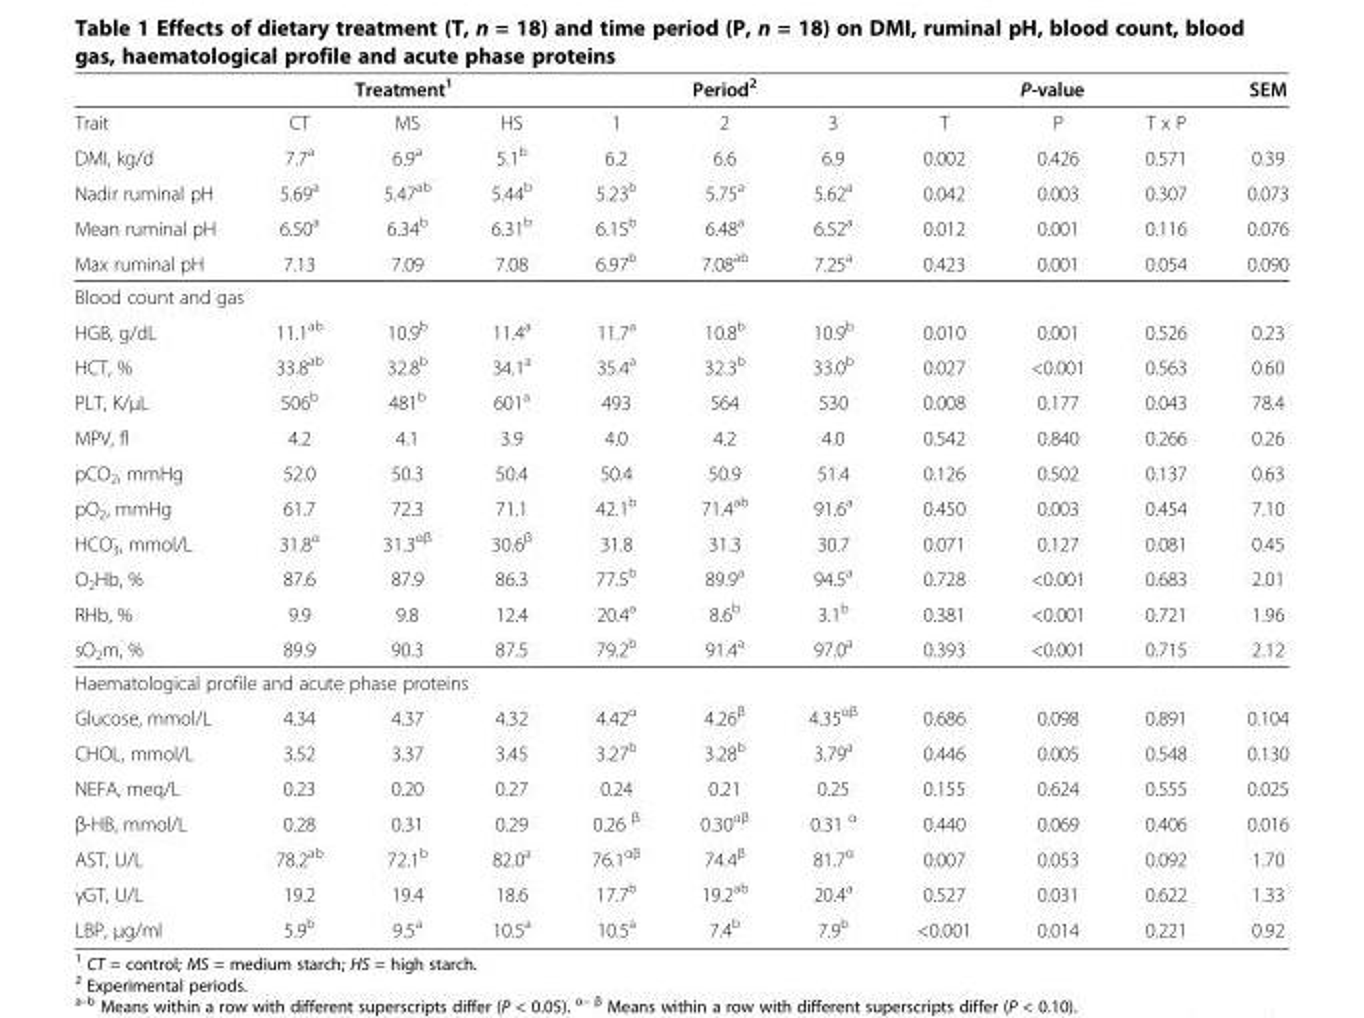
<table><thead><tr><td rowspan="2">Trait</td><td colspan="3">Treatment<sup>1</sup></td><td colspan="3">Period<sup>2</sup></td><td colspan="3">P-value</td><td rowspan="2">SEM</td></tr><tr><td>CT</td><td>MS</td><td>HS</td><td>1</td><td>2</td><td>3</td><td>T</td><td>P</td><td>T x P</td></tr></thead><tbody><tr><td>DMI, kg/d</td><td>7.7<sup>a</sup></td><td>6.9<sup>a</sup></td><td>5.1<sup>b</sup></td><td>6.2</td><td>6.6</td><td>6.9</td><td>0.002</td><td>0.426</td><td>0.571</td><td>0.39</td></tr><tr><td>Nadir ruminal pH</td><td>5.69<sup>a</sup></td><td>5.47<sup>ab</sup></td><td>5.44<sup>b</sup></td><td>5.23<sup>b</sup></td><td>5.75<sup>a</sup></td><td>5.62<sup>a</sup></td><td>0.042</td><td>0.003</td><td>0.307</td><td>0.073</td></tr><tr><td>Mean ruminal pH</td><td>6.50<sup>a</sup></td><td>6.34<sup>b</sup></td><td>6.31<sup>b</sup></td><td>6.15<sup>b</sup></td><td>6.48<sup>a</sup></td><td>6.52<sup>a</sup></td><td>0.012</td><td>0.001</td><td>0.116</td><td>0.076</td></tr><tr><td>Max ruminal pH</td><td>7.13</td><td>7.09</td><td>7.08</td><td>6.97<sup>b</sup></td><td>7.08<sup>ab</sup></td><td>7.25<sup>a</sup></td><td>0.423</td><td>0.001</td><td>0.054</td><td>0.090</td></tr><tr><td colspan="11">Blood count and gas</td></tr><tr><td>HGB, g/dL</td><td>11.1<sup>ab</sup></td><td>10.9<sup>b</sup></td><td>11.4<sup>a</sup></td><td>11.7<sup>a</sup></td><td>10.8<sup>b</sup></td><td>10.9<sup>b</sup></td><td>0.010</td><td>0.001</td><td>0.526</td><td>0.23</td></tr><tr><td>HCT, %</td><td>33.8<sup>ab</sup></td><td>32.8<sup>b</sup></td><td>34.1<sup>a</sup></td><td>35.4<sup>a</sup></td><td>32.3<sup>b</sup></td><td>33.0<sup>b</sup></td><td>0.027</td><td>&lt;0.001</td><td>0.563</td><td>0.60</td></tr><tr><td>PLT, K/μL</td><td>506<sup>b</sup></td><td>481<sup>b</sup></td><td>601<sup>a</sup></td><td>493</td><td>564</td><td>530</td><td>0.008</td><td>0.177</td><td>0.043</td><td>78.4</td></tr><tr><td>MPV, fl</td><td>4.2</td><td>4.1</td><td>3.9</td><td>4.0</td><td>4.2</td><td>4.0</td><td>0.542</td><td>0.840</td><td>0.266</td><td>0.26</td></tr><tr><td>pCO<sub>2</sub>, mmHg</td><td>52.0</td><td>50.3</td><td>50.4</td><td>50.4</td><td>50.9</td><td>51.4</td><td>0.126</td><td>0.502</td><td>0.137</td><td>0.63</td></tr><tr><td>pO<sub>2</sub>, mmHg</td><td>61.7</td><td>72.3</td><td>71.1</td><td>42.1<sup>b</sup></td><td>71.4<sup>ab</sup></td><td>91.6<sup>a</sup></td><td>0.450</td><td>0.003</td><td>0.454</td><td>7.10</td></tr><tr><td>HCO<sub>3</sub> <sup>-</sup>, mmol/L</td><td>31.8<sup>α</sup></td><td>31.3<sup>αβ</sup></td><td>30.6<sup>β</sup></td><td>31.8</td><td>31.3</td><td>30.7</td><td>0.071</td><td>0.127</td><td>0.081</td><td>0.45</td></tr><tr><td>O<sub>2</sub>Hb, %</td><td>87.6</td><td>87.9</td><td>86.3</td><td>77.5<sup>b</sup></td><td>89.9<sup>a</sup></td><td>94.5<sup>a</sup></td><td>0.728</td><td>&lt;0.001</td><td>0.683</td><td>2.01</td></tr><tr><td>RHb, %</td><td>9.9</td><td>9.8</td><td>12.4</td><td>20.4<sup>a</sup></td><td>8.6<sup>b</sup></td><td>3.1<sup>b</sup></td><td>0.381</td><td>&lt;0.001</td><td>0.721</td><td>1.96</td></tr><tr><td>sO<sub>2</sub>m, %</td><td>89.9</td><td>90.3</td><td>87.5</td><td>79.2<sup>b</sup></td><td>91.4<sup>a</sup></td><td>97.0<sup>a</sup></td><td>0.393</td><td>&lt;0.001</td><td>0.715</td><td>2.12</td></tr><tr><td colspan="11">Haematological profile and acute phase proteins</td></tr><tr><td>Glucose, mmol/L</td><td>4.34</td><td>4.37</td><td>4.32</td><td>4.42<sup>α</sup></td><td>4.26<sup>β</sup></td><td>4.35<sup>αβ</sup></td><td>0.686</td><td>0.098</td><td>0.891</td><td>0.104</td></tr><tr><td>CHOL, mmol/L</td><td>3.52</td><td>3.37</td><td>3.45</td><td>3.27<sup>b</sup></td><td>3.28<sup>b</sup></td><td>3.79<sup>a</sup></td><td>0.446</td><td>0.005</td><td>0.548</td><td>0.130</td></tr><tr><td>NEFA, meq/L</td><td>0.23</td><td>0.20</td><td>0.27</td><td>0.24</td><td>0.21</td><td>0.25</td><td>0.155</td><td>0.624</td><td>0.555</td><td>0.025</td></tr><tr><td>β-HB, mmol/L</td><td>0.28</td><td>0.31</td><td>0.29</td><td>0.26 <sup>β</sup></td><td>0.30<sup>αβ</sup></td><td>0.31 <sup>α</sup></td><td>0.440</td><td>0.069</td><td>0.406</td><td>0.016</td></tr><tr><td>AST, U/L</td><td>78.2<sup>ab</sup></td><td>72.1<sup>b</sup></td><td>82.0<sup>a</sup></td><td>76.1<sup>αβ</sup></td><td>74.4<sup>β</sup></td><td>81.7<sup>α</sup></td><td>0.007</td><td>0.053</td><td>0.092</td><td>1.70</td></tr><tr><td>γGT, U/L</td><td>19.2</td><td>19.4</td><td>18.6</td><td>17.7<sup>b</sup></td><td>19.2<sup>ab</sup></td><td>20.4<sup>a</sup></td><td>0.527</td><td>0.031</td><td>0.622</td><td>1.33</td></tr><tr><td>LBP, μg/ml</td><td>5.9<sup>b</sup></td><td>9.5<sup>a</sup></td><td>10.5<sup>a</sup></td><td>10.5<sup>a</sup></td><td>7.4<sup>b</sup></td><td>7.9<sup>b</sup></td><td>&lt;0.001</td><td>0.014</td><td>0.221</td><td>0.92</td></tr></tbody></table>